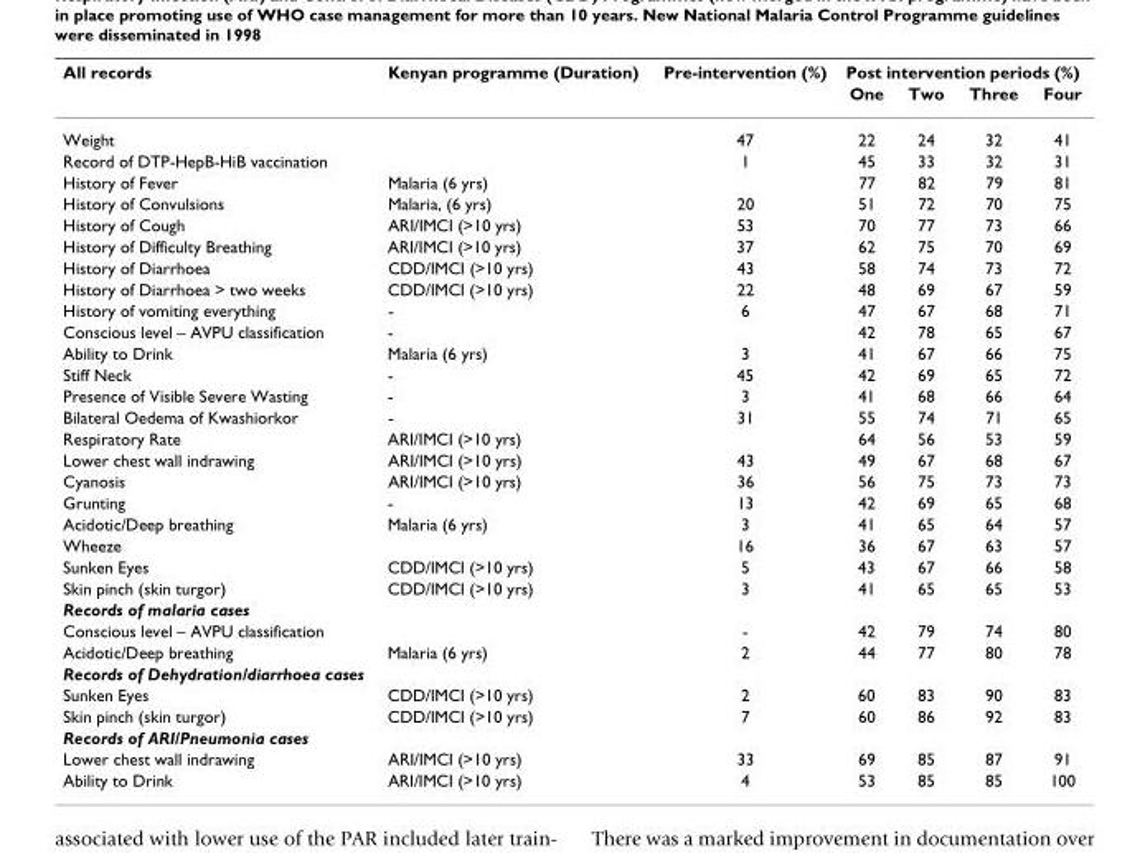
<table><thead><tr><td rowspan="2">All records</td><td rowspan="2">Kenyan programme (Duration)</td><td rowspan="2">Pre-intervention (%)</td><td colspan="4">Post intervention periods (%)</td></tr><tr><td>One</td><td>Two</td><td>Three</td><td>Four</td></tr></thead><tbody><tr><td>Weight</td><td></td><td>47</td><td>22</td><td>24</td><td>32</td><td>41</td></tr><tr><td>Record of DTP-HepB-HiB vaccination</td><td></td><td>1</td><td>45</td><td>33</td><td>32</td><td>31</td></tr><tr><td>History of Fever</td><td>Malaria (6 yrs)</td><td></td><td>77</td><td>82</td><td>79</td><td>81</td></tr><tr><td>History of Convulsions</td><td>Malaria, (6 yrs)</td><td>20</td><td>51</td><td>72</td><td>70</td><td>75</td></tr><tr><td>History of Cough</td><td>ARI/IMCI (&gt;10 yrs)</td><td>53</td><td>70</td><td>77</td><td>73</td><td>66</td></tr><tr><td>History of Difficulty Breathing</td><td>ARI/IMCI (&gt;10 yrs)</td><td>37</td><td>62</td><td>75</td><td>70</td><td>69</td></tr><tr><td>History of Diarrhoea</td><td>CDD/IMCI (&gt;10 yrs)</td><td>43</td><td>58</td><td>74</td><td>73</td><td>72</td></tr><tr><td>History of Diarrhoea &gt; two weeks</td><td>CDD/IMCI (&gt;10 yrs)</td><td>22</td><td>48</td><td>69</td><td>67</td><td>59</td></tr><tr><td>History of vomiting everything</td><td>-</td><td>6</td><td>47</td><td>67</td><td>68</td><td>71</td></tr><tr><td>Conscious level – AVPU classification</td><td>-</td><td></td><td>42</td><td>78</td><td>65</td><td>67</td></tr><tr><td>Ability to Drink</td><td>Malaria (6 yrs)</td><td>3</td><td>41</td><td>67</td><td>66</td><td>75</td></tr><tr><td>Stiff Neck</td><td>-</td><td>45</td><td>42</td><td>69</td><td>65</td><td>72</td></tr><tr><td>Presence of Visible Severe Wasting</td><td>-</td><td>3</td><td>41</td><td>68</td><td>66</td><td>64</td></tr><tr><td>Bilateral Oedema of Kwashiorkor</td><td>-</td><td>31</td><td>55</td><td>74</td><td>71</td><td>65</td></tr><tr><td>Respiratory Rate</td><td>ARI/IMCI (&gt;10 yrs)</td><td></td><td>64</td><td>56</td><td>53</td><td>59</td></tr><tr><td>Lower chest wall indrawing</td><td>ARI/IMCI (&gt;10 yrs)</td><td>43</td><td>49</td><td>67</td><td>68</td><td>67</td></tr><tr><td>Cyanosis</td><td>ARI/IMCI (&gt;10 yrs)</td><td>36</td><td>56</td><td>75</td><td>73</td><td>73</td></tr><tr><td>Grunting</td><td>-</td><td>13</td><td>42</td><td>69</td><td>65</td><td>68</td></tr><tr><td>Acidotic/Deep breathing</td><td>Malaria (6 yrs)</td><td>3</td><td>41</td><td>65</td><td>64</td><td>57</td></tr><tr><td>Wheeze</td><td></td><td>16</td><td>36</td><td>67</td><td>63</td><td>57</td></tr><tr><td>Sunken Eyes</td><td>CDD/IMCI (&gt;10 yrs)</td><td>5</td><td>43</td><td>67</td><td>66</td><td>58</td></tr><tr><td>Skin pinch (skin turgor)</td><td>CDD/IMCI (&gt;10 yrs)</td><td>3</td><td>41</td><td>65</td><td>65</td><td>53</td></tr><tr><td colspan="7">Records of malaria cases</td></tr><tr><td>Conscious level – AVPU classification</td><td></td><td>-</td><td>42</td><td>79</td><td>74</td><td>80</td></tr><tr><td>Acidotic/Deep breathing</td><td>Malaria (6 yrs)</td><td>2</td><td>44</td><td>77</td><td>80</td><td>78</td></tr><tr><td colspan="7">Records of Dehydration/diarrhoea cases</td></tr><tr><td>Sunken Eyes</td><td>CDD/IMCI (&gt;10 yrs)</td><td>2</td><td>60</td><td>83</td><td>90</td><td>83</td></tr><tr><td>Skin pinch (skin turgor)</td><td>CDD/IMCI (&gt;10 yrs)</td><td>7</td><td>60</td><td>86</td><td>92</td><td>83</td></tr><tr><td colspan="7">Records of ARI/Pneumonia cases</td></tr><tr><td>Lower chest wall indrawing</td><td>ARI/IMCI (&gt;10 yrs)</td><td>33</td><td>69</td><td>85</td><td>87</td><td>91</td></tr><tr><td>Ability to Drink</td><td>ARI/IMCI (&gt;10 yrs)</td><td>4</td><td>53</td><td>85</td><td>85</td><td>100</td></tr></tbody></table>